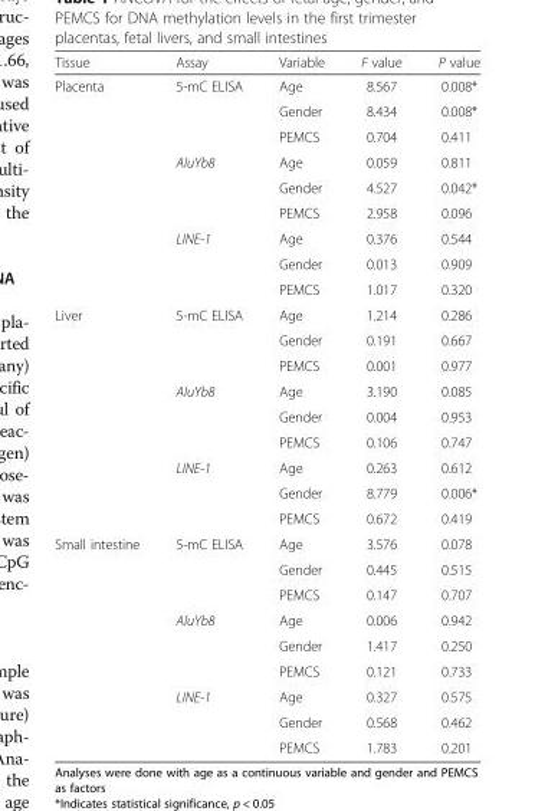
<table><thead><tr><td>Tissue</td><td>Assay</td><td>Variable</td><td>F value</td><td>P value</td></tr></thead><tbody><tr><td rowspan="9">Placenta</td><td rowspan="3">5-mC ELISA</td><td>Age</td><td>8.567</td><td>0.008*</td></tr><tr><td>Gender</td><td>8.434</td><td>0.008*</td></tr><tr><td>PEMCS</td><td>0.704</td><td>0.411</td></tr><tr><td rowspan="3">AluYb8</td><td>Age</td><td>0.059</td><td>0.811</td></tr><tr><td>Gender</td><td>4.527</td><td>0.042*</td></tr><tr><td>PEMCS</td><td>2.958</td><td>0.096</td></tr><tr><td rowspan="3">LINE-1</td><td>Age</td><td>0.376</td><td>0.544</td></tr><tr><td>Gender</td><td>0.013</td><td>0.909</td></tr><tr><td>PEMCS</td><td>1.017</td><td>0.320</td></tr><tr><td rowspan="9">Liver</td><td rowspan="3">5-mC ELISA</td><td>Age</td><td>1.214</td><td>0.286</td></tr><tr><td>Gender</td><td>0.191</td><td>0.667</td></tr><tr><td>PEMCS</td><td>0.001</td><td>0.977</td></tr><tr><td rowspan="3">AluYb8</td><td>Age</td><td>3.190</td><td>0.085</td></tr><tr><td>Gender</td><td>0.004</td><td>0.953</td></tr><tr><td>PEMCS</td><td>0.106</td><td>0.747</td></tr><tr><td rowspan="3">LINE-1</td><td>Age</td><td>0.263</td><td>0.612</td></tr><tr><td>Gender</td><td>8.779</td><td>0.006*</td></tr><tr><td>PEMCS</td><td>0.672</td><td>0.419</td></tr><tr><td rowspan="9">Small intestine</td><td rowspan="3">5-mC ELISA</td><td>Age</td><td>3.576</td><td>0.078</td></tr><tr><td>Gender</td><td>0.445</td><td>0.515</td></tr><tr><td>PEMCS</td><td>0.147</td><td>0.707</td></tr><tr><td rowspan="3">AluYb8</td><td>Age</td><td>0.006</td><td>0.942</td></tr><tr><td>Gender</td><td>1.417</td><td>0.250</td></tr><tr><td>PEMCS</td><td>0.121</td><td>0.733</td></tr><tr><td rowspan="3">LINE-1</td><td>Age</td><td>0.327</td><td>0.575</td></tr><tr><td>Gender</td><td>0.568</td><td>0.462</td></tr><tr><td>PEMCS</td><td>1.783</td><td>0.201</td></tr></tbody></table>